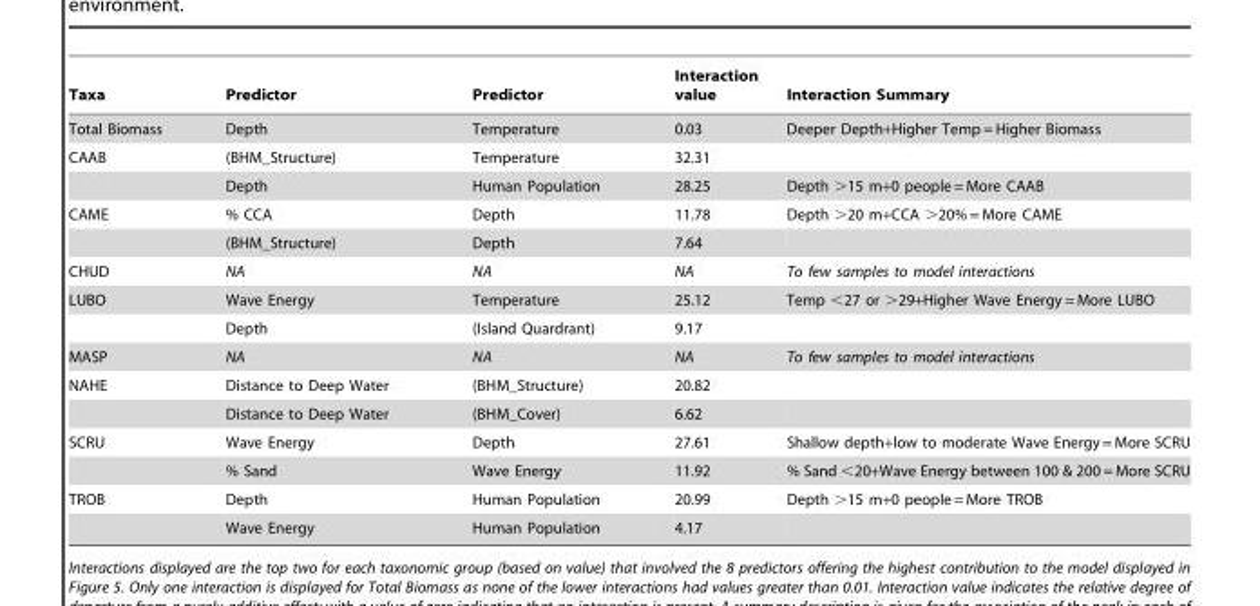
<table><thead><tr><td>Taxa</td><td>Predictor</td><td>Predictor</td><td>Interaction value</td><td>Interaction Summary</td></tr></thead><tbody><tr><td>Total Biomass</td><td>Depth</td><td>Temperature</td><td>0.03</td><td>Deeper Depth+Higher Temp = Higher Biomass</td></tr><tr><td rowspan="2">CAAB</td><td>(BHM_Structure)</td><td>Temperature</td><td>32.31</td><td></td></tr><tr><td>Depth</td><td>Human Population</td><td>28.25</td><td>Depth &gt;15 m+0 people = More CAAB</td></tr><tr><td rowspan="2">CAME</td><td>% CCA</td><td>Depth</td><td>11.78</td><td>Depth &gt;20 m+CCA &gt;20% = More CAME</td></tr><tr><td>(BHM_Structure)</td><td>Depth</td><td>7.64</td><td></td></tr><tr><td>CHUD</td><td>NA</td><td>NA</td><td>NA</td><td>To few samples to model interactions</td></tr><tr><td rowspan="2">LUBO</td><td>Wave Energy</td><td>Temperature</td><td>25.12</td><td>Temp &lt;27 or &gt;29+Higher Wave Energy = More LUBO</td></tr><tr><td>Depth</td><td>(Island Quardrant)</td><td>9.17</td><td></td></tr><tr><td>MASP</td><td>NA</td><td>NA</td><td>NA</td><td>To few samples to model interactions</td></tr><tr><td rowspan="2">NAHE</td><td>Distance to Deep Water</td><td>(BHM_Structure)</td><td>20.82</td><td></td></tr><tr><td>Distance to Deep Water</td><td>(BHM_Cover)</td><td>6.62</td><td></td></tr><tr><td rowspan="2">SCRU</td><td>Wave Energy</td><td>Depth</td><td>27.61</td><td>Shallow depth+low to moderate Wave Energy = More SCRU</td></tr><tr><td>% Sand</td><td>Wave Energy</td><td>11.92</td><td>% Sand &lt;20+Wave Energy between 100 &amp; 200 = More SCRU</td></tr><tr><td rowspan="2">TROB</td><td>Depth</td><td>Human Population</td><td>20.99</td><td>Depth &gt;15 m+0 people = More TROB</td></tr><tr><td>Wave Energy</td><td>Human Population</td><td>4.17</td><td></td></tr></tbody></table>